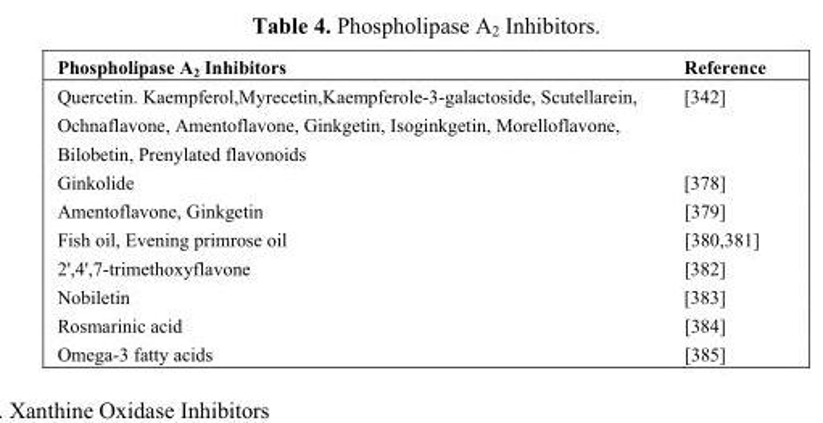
<table><thead><tr><td>Phospholipase A<sub>2</sub> Inhibitors</td><td>Reference</td></tr></thead><tbody><tr><td>Quercetin. Kaempferol,Myrecetin,Kaempferole-3-galactoside, Scutellarein, Ochnaflavone, Amentoflavone, Ginkgetin, Isoginkgetin, Morelloflavone, Bilobetin, Prenylated flavonoids</td><td>[342]</td></tr><tr><td>Ginkolide</td><td>[378]</td></tr><tr><td>Amentoflavone, Ginkgetin</td><td>[379]</td></tr><tr><td>Fish oil, Evening primrose oil</td><td>[380,381]</td></tr><tr><td>2&#x27;,4&#x27;,7-trimethoxyflavone</td><td>[382]</td></tr><tr><td>Nobiletin</td><td>[383]</td></tr><tr><td>Rosmarinic acid</td><td>[384]</td></tr><tr><td>Omega-3 fatty acids</td><td>[385]</td></tr></tbody></table>